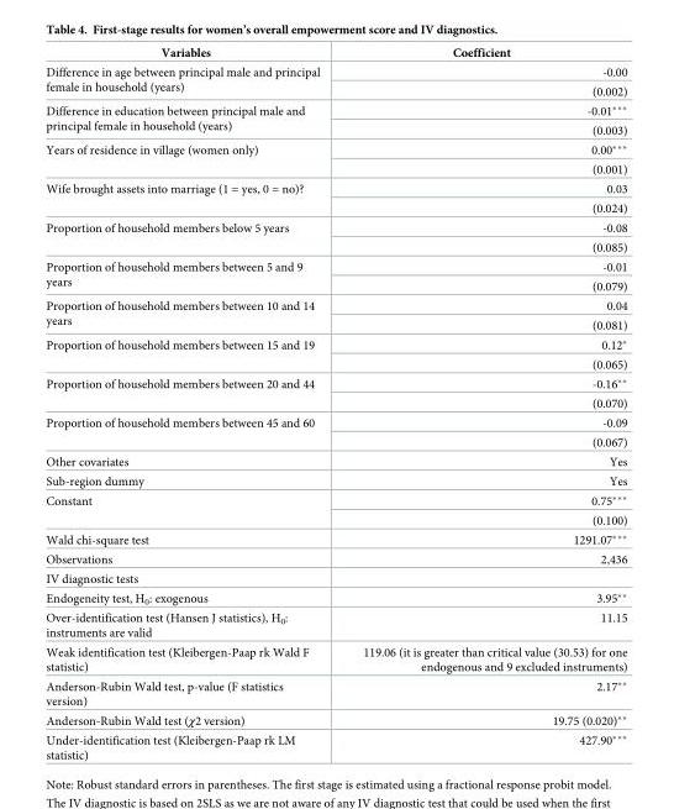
<table><thead><tr><td>Variables</td><td>Coefficient</td></tr></thead><tbody><tr><td rowspan="2">Difference in age between principal male and principal female in household (years)</td><td>-0.00</td></tr><tr><td>(0.002)</td></tr><tr><td rowspan="2">Difference in education between principal male and principal female in household (years)</td><td>-0.01***</td></tr><tr><td>(0.003)</td></tr><tr><td rowspan="2">Years of residence in village (women only)</td><td>0.00***</td></tr><tr><td>(0.001)</td></tr><tr><td rowspan="2">Wife brought assets into marriage (1 = yes, 0 = no)?</td><td>0.03</td></tr><tr><td>(0.024)</td></tr><tr><td rowspan="2">Proportion of household members below 5 years</td><td>-0.08</td></tr><tr><td>(0.085)</td></tr><tr><td rowspan="2">Proportion of household members between 5 and 9 years</td><td>-0.01</td></tr><tr><td>(0.079)</td></tr><tr><td rowspan="2">Proportion of household members between 10 and 14 years</td><td>0.04</td></tr><tr><td>(0.081)</td></tr><tr><td rowspan="2">Proportion of household members between 15 and 19</td><td>0.12*</td></tr><tr><td>(0.065)</td></tr><tr><td rowspan="2">Proportion of household members between 20 and 44</td><td>-0.16**</td></tr><tr><td>(0.070)</td></tr><tr><td rowspan="2">Proportion of household members between 45 and 60</td><td>-0.09</td></tr><tr><td>(0.067)</td></tr><tr><td>Other covariates</td><td>Yes</td></tr><tr><td>Sub-region dummy</td><td>Yes</td></tr><tr><td rowspan="2">Constant</td><td>0.75***</td></tr><tr><td>(0.100)</td></tr><tr><td>Wald chi-square test</td><td>1291.07***</td></tr><tr><td>Observations</td><td>2,436</td></tr><tr><td colspan="2">IV diagnostic tests</td></tr><tr><td>Endogeneity test, H<sub>0</sub>: exogenous</td><td>3.95**</td></tr><tr><td>Over-identification test (Hansen J statistics), H<sub>0</sub>: instruments are valid</td><td>11.15</td></tr><tr><td>Weak identification test (Kleibergen-Paap rk Wald F statistic)</td><td>119.06 (it is greater than critical value (30.53) for one endogenous and 9 excluded instruments)</td></tr><tr><td>Anderson-Rubin Wald test, p-value (F statistics version)</td><td>2.17**</td></tr><tr><td>Anderson-Rubin Wald test (χ2 version)</td><td>19.75 (0.020)**</td></tr><tr><td>Under-identification test (Kleibergen-Paap rk LM statistic)</td><td>427.90***</td></tr></tbody></table>